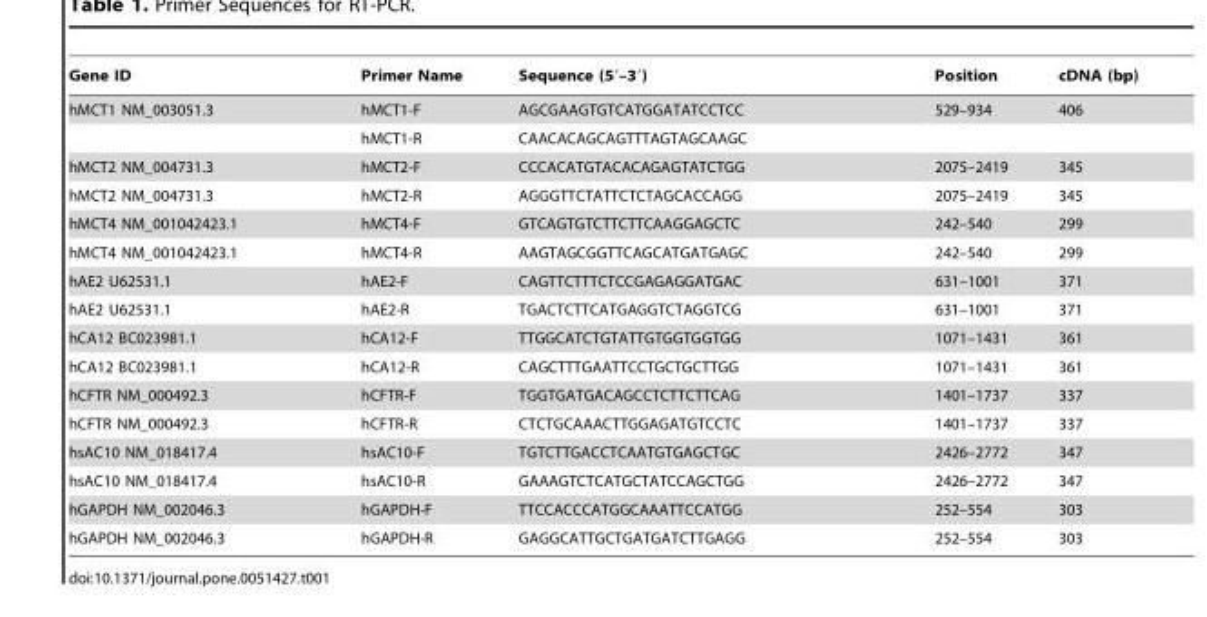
<table><thead><tr><td>Gene ID</td><td>Primer Name</td><td>Sequence (5′–3′)</td><td>Position</td><td>cDNA (bp)</td></tr></thead><tbody><tr><td rowspan="2">hMCT1 NM_003051.3</td><td>hMCT1-F</td><td>AGCGAAGTGTCATGGATATCCTCC</td><td>529–934</td><td>406</td></tr><tr><td>hMCT1-R</td><td>CAACACAGCAGTTTAGTAGCAAGC</td><td></td><td></td></tr><tr><td>hMCT2 NM_004731.3</td><td>hMCT2-F</td><td>CCCACATGTACACAGAGTATCTGG</td><td>2075–2419</td><td>345</td></tr><tr><td>hMCT2 NM_004731.3</td><td>hMCT2-R</td><td>AGGGTTCTATTCTCTAGCACCAGG</td><td>2075–2419</td><td>345</td></tr><tr><td>hMCT4 NM_001042423.1</td><td>hMCT4-F</td><td>GTCAGTGTCTTCTTCAAGGAGCTC</td><td>242–540</td><td>299</td></tr><tr><td>hMCT4 NM_001042423.1</td><td>hMCT4-R</td><td>AAGTAGCGGTTCAGCATGATGAGC</td><td>242–540</td><td>299</td></tr><tr><td>hAE2 U62531.1</td><td>hAE2-F</td><td>CAGTTCTTTCTCCGAGAGGATGAC</td><td>631–1001</td><td>371</td></tr><tr><td>hAE2 U62531.1</td><td>hAE2-R</td><td>TGACTCTTCATGAGGTCTAGGTCG</td><td>631–1001</td><td>371</td></tr><tr><td>hCA12 BC023981.1</td><td>hCA12-F</td><td>TTGGCATCTGTATTGTGGTGGTGG</td><td>1071–1431</td><td>361</td></tr><tr><td>hCA12 BC023981.1</td><td>hCA12-R</td><td>CAGCTTTGAATTCCTGCTGCTTGG</td><td>1071–1431</td><td>361</td></tr><tr><td>hCFTR NM_000492.3</td><td>hCFTR-F</td><td>TGGTGATGACAGCCTCTTCTTCAG</td><td>1401–1737</td><td>337</td></tr><tr><td>hCFTR NM_000492.3</td><td>hCFTR-R</td><td>CTCTGCAAACTTGGAGATGTCCTC</td><td>1401–1737</td><td>337</td></tr><tr><td>hsAC10 NM_018417.4</td><td>hsAC10-F</td><td>TGTCTTGACCTCAATGTGAGCTGC</td><td>2426–2772</td><td>347</td></tr><tr><td>hsAC10 NM_018417.4</td><td>hsAC10-R</td><td>GAAAGTCTCATGCTATCCAGCTGG</td><td>2426–2772</td><td>347</td></tr><tr><td>hGAPDH NM_002046.3</td><td>hGAPDH-F</td><td>TTCCACCCATGGCAAATTCCATGG</td><td>252–554</td><td>303</td></tr><tr><td>hGAPDH NM_002046.3</td><td>hGAPDH-R</td><td>GAGGCATTGCTGATGATCTTGAGG</td><td>252–554</td><td>303</td></tr></tbody></table>